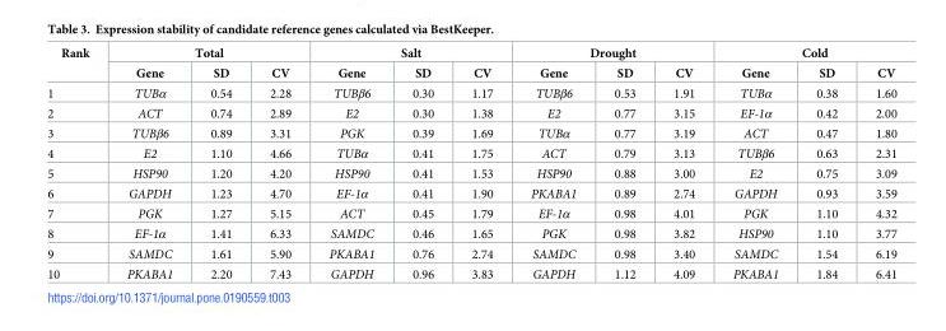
<table><thead><tr><td rowspan="2">Rank</td><td colspan="3">Total</td><td colspan="3">Salt</td><td colspan="3">Drought</td><td colspan="3">Cold</td></tr><tr><td>Gene</td><td>SD</td><td>CV</td><td>Gene</td><td>SD</td><td>CV</td><td>Gene</td><td>SD</td><td>CV</td><td>Gene</td><td>SD</td><td>CV</td></tr></thead><tbody><tr><td>1</td><td>TUBα</td><td>0.54</td><td>2.28</td><td>TUBβ6</td><td>0.30</td><td>1.17</td><td>TUBβ6</td><td>0.53</td><td>1.91</td><td>TUBα</td><td>0.38</td><td>1.60</td></tr><tr><td>2</td><td>ACT</td><td>0.74</td><td>2.89</td><td>E2</td><td>0.30</td><td>1.38</td><td>E2</td><td>0.77</td><td>3.15</td><td>EF-1α</td><td>0.42</td><td>2.00</td></tr><tr><td>3</td><td>TUBβ6</td><td>0.89</td><td>3.31</td><td>PGK</td><td>0.39</td><td>1.69</td><td>TUBα</td><td>0.77</td><td>3.19</td><td>ACT</td><td>0.47</td><td>1.80</td></tr><tr><td>4</td><td>E2</td><td>1.10</td><td>4.66</td><td>TUBα</td><td>0.41</td><td>1.75</td><td>ACT</td><td>0.79</td><td>3.13</td><td>TUBβ6</td><td>0.63</td><td>2.31</td></tr><tr><td>5</td><td>HSP90</td><td>1.20</td><td>4.20</td><td>HSP90</td><td>0.41</td><td>1.53</td><td>HSP90</td><td>0.88</td><td>3.00</td><td>E2</td><td>0.75</td><td>3.09</td></tr><tr><td>6</td><td>GAPDH</td><td>1.23</td><td>4.70</td><td>EF-1α</td><td>0.41</td><td>1.90</td><td>PKABA1</td><td>0.89</td><td>2.74</td><td>GAPDH</td><td>0.93</td><td>3.59</td></tr><tr><td>7</td><td>PGK</td><td>1.27</td><td>5.15</td><td>ACT</td><td>0.45</td><td>1.79</td><td>EF-1α</td><td>0.98</td><td>4.01</td><td>PGK</td><td>1.10</td><td>4.32</td></tr><tr><td>8</td><td>EF-1α</td><td>1.41</td><td>6.33</td><td>SAMDC</td><td>0.46</td><td>1.65</td><td>PGK</td><td>0.98</td><td>3.82</td><td>HSP90</td><td>1.10</td><td>3.77</td></tr><tr><td>9</td><td>SAMDC</td><td>1.61</td><td>5.90</td><td>PKABA1</td><td>0.76</td><td>2.74</td><td>SAMDC</td><td>0.98</td><td>3.40</td><td>SAMDC</td><td>1.54</td><td>6.19</td></tr><tr><td>10</td><td>PKABA1</td><td>2.20</td><td>7.43</td><td>GAPDH</td><td>0.96</td><td>3.83</td><td>GAPDH</td><td>1.12</td><td>4.09</td><td>PKABA1</td><td>1.84</td><td>6.41</td></tr></tbody></table>